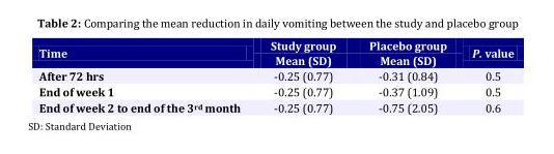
<table><thead><tr><td rowspan="2">Time</td><td rowspan="2">Study group Mean (SD)</td><td rowspan="2">Placebo group Mean (SD)</td><td rowspan="2">P. value</td></tr><tr></tr></thead><tbody><tr><td>After 72 hrs</td><td>-0.25 (0.77)</td><td>-0.31 (0.84)</td><td>0.5</td></tr><tr><td>End of week 1</td><td>-0.25 (0.77)</td><td>-0.37 (1.09)</td><td>0.5</td></tr><tr><td>End of week 2 to end of the 3<sup>rd</sup> month</td><td>-0.25 (0.77)</td><td>-0.75 (2.05)</td><td>0.6</td></tr></tbody></table>